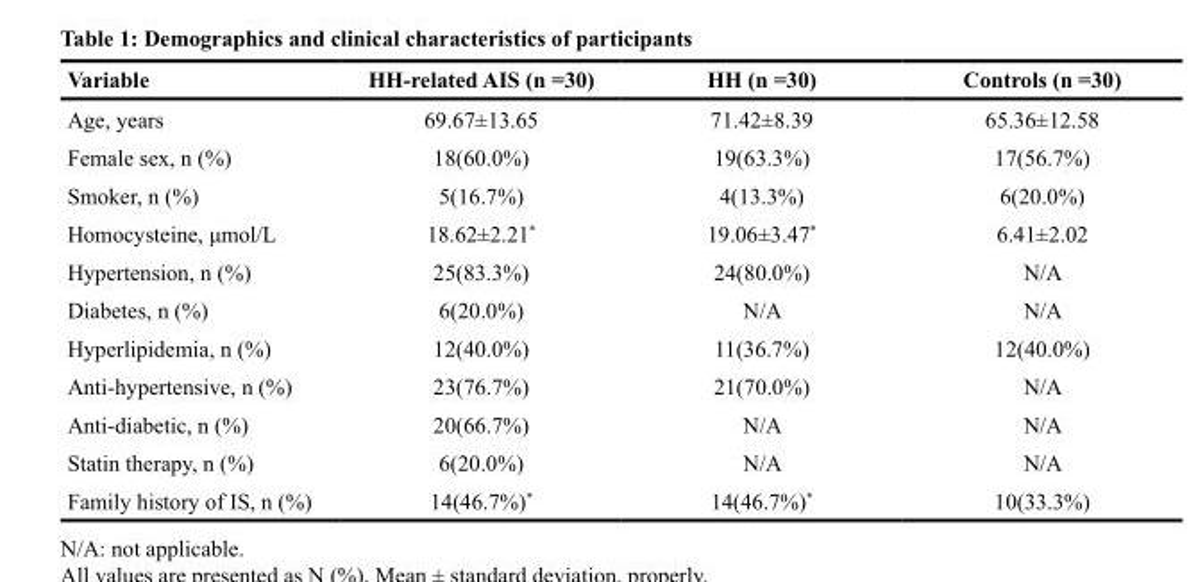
<table><thead><tr><td>Variable</td><td>HH-related AIS (n =30)</td><td>HH (n =30)</td><td>Controls (n =30)</td></tr></thead><tbody><tr><td>Age, years</td><td>69.67±13.65</td><td>71.42±8.39</td><td>65.36±12.58</td></tr><tr><td>Female sex, n (%)</td><td>18(60.0%)</td><td>19(63.3%)</td><td>17(56.7%)</td></tr><tr><td>Smoker, n (%)</td><td>5(16.7%)</td><td>4(13.3%)</td><td>6(20.0%)</td></tr><tr><td>Homocysteine, μmol/L</td><td>18.62±2.21*</td><td>19.06±3.47*</td><td>6.41±2.02</td></tr><tr><td>Hypertension, n (%)</td><td>25(83.3%)</td><td>24(80.0%)</td><td>N/A</td></tr><tr><td>Diabetes, n (%)</td><td>6(20.0%)</td><td>N/A</td><td>N/A</td></tr><tr><td>Hyperlipidemia, n (%)</td><td>12(40.0%)</td><td>11(36.7%)</td><td>12(40.0%)</td></tr><tr><td>Anti-hypertensive, n (%)</td><td>23(76.7%)</td><td>21(70.0%)</td><td>N/A</td></tr><tr><td>Anti-diabetic, n (%)</td><td>20(66.7%)</td><td>N/A</td><td>N/A</td></tr><tr><td>Statin therapy, n (%)</td><td>6(20.0%)</td><td>N/A</td><td>N/A</td></tr><tr><td>Family history of IS, n (%)</td><td>14(46.7%)*</td><td>14(46.7%)*</td><td>10(33.3%)</td></tr></tbody></table>